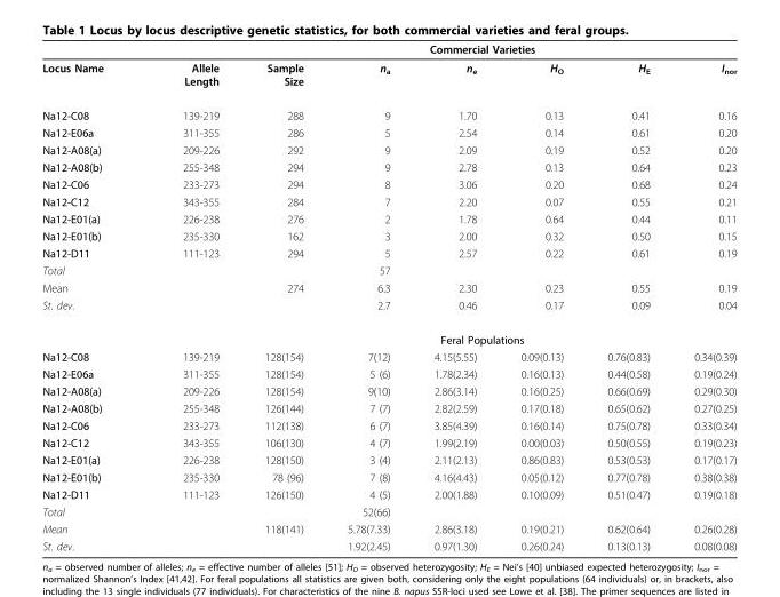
<table><thead><tr><td rowspan="2">Locus Name</td><td rowspan="2">Allele Length</td><td colspan="6">Commercial Varieties</td></tr><tr><td>Sample Size</td><td>n<sub>a</sub></td><td>n<sub>e</sub></td><td>H<sub>O</sub></td><td>H<sub>E</sub></td><td>I<sub>nor</sub></td></tr></thead><tbody><tr><td>Na12-C08</td><td>139-219</td><td>288</td><td>9</td><td>1.70</td><td>0.13</td><td>0.41</td><td>0.16</td></tr><tr><td>Na12-E06a</td><td>311-355</td><td>286</td><td>5</td><td>2.54</td><td>0.14</td><td>0.61</td><td>0.20</td></tr><tr><td>Na12-A08(a)</td><td>209-226</td><td>292</td><td>9</td><td>2.09</td><td>0.19</td><td>0.52</td><td>0.20</td></tr><tr><td>Na12-A08(b)</td><td>255-348</td><td>294</td><td>9</td><td>2.78</td><td>0.13</td><td>0.64</td><td>0.23</td></tr><tr><td>Na12-C06</td><td>233-273</td><td>294</td><td>8</td><td>3.06</td><td>0.20</td><td>0.68</td><td>0.24</td></tr><tr><td>Na12-C12</td><td>343-355</td><td>284</td><td>7</td><td>2.20</td><td>0.07</td><td>0.55</td><td>0.21</td></tr><tr><td>Na12-E01(a)</td><td>226-238</td><td>276</td><td>2</td><td>1.78</td><td>0.64</td><td>0.44</td><td>0.11</td></tr><tr><td>Na12-E01(b)</td><td>235-330</td><td>162</td><td>3</td><td>2.00</td><td>0.32</td><td>0.50</td><td>0.15</td></tr><tr><td>Na12-D11</td><td>111-123</td><td>294</td><td>5</td><td>2.57</td><td>0.22</td><td>0.61</td><td>0.19</td></tr><tr><td>Total</td><td></td><td></td><td>57</td><td></td><td></td><td></td><td></td></tr><tr><td>Mean</td><td></td><td>274</td><td>6.3</td><td>2.30</td><td>0.23</td><td>0.55</td><td>0.19</td></tr><tr><td rowspan="2">St. dev.</td><td></td><td></td><td>2.7</td><td>0.46</td><td>0.17</td><td>0.09</td><td>0.04</td></tr><tr><td></td><td colspan="6">Feral Populations</td></tr><tr><td>Na12-C08</td><td>139-219</td><td>128(154)</td><td>7(12)</td><td>4.15(5.55)</td><td>0.09(0.13)</td><td>0.76(0.83)</td><td>0.34(0.39)</td></tr><tr><td>Na12-E06a</td><td>311-355</td><td>128(154)</td><td>5 (6)</td><td>1.78(2.34)</td><td>0.16(0.13)</td><td>0.44(0.58)</td><td>0.19(0.24)</td></tr><tr><td>Na12-A08(a)</td><td>209-226</td><td>128(154)</td><td>9(10)</td><td>2.86(3.14)</td><td>0.16(0.25)</td><td>0.66(0.69)</td><td>0.29(0.30)</td></tr><tr><td>Na12-A08(b)</td><td>255-348</td><td>126(144)</td><td>7 (7)</td><td>2.82(2.59)</td><td>0.17(0.18)</td><td>0.65(0.62)</td><td>0.27(0.25)</td></tr><tr><td>Na12-C06</td><td>233-273</td><td>112(138)</td><td>6 (7)</td><td>3.85(4.39)</td><td>0.16(0.14)</td><td>0.75(0.78)</td><td>0.33(0.34)</td></tr><tr><td>Na12-C12</td><td>343-355</td><td>106(130)</td><td>4 (7)</td><td>1.99(2.19)</td><td>0.00(0.03)</td><td>0.50(0.55)</td><td>0.19(0.23)</td></tr><tr><td>Na12-E01(a)</td><td>226-238</td><td>128(150)</td><td>3 (4)</td><td>2.11(2.13)</td><td>0.86(0.83)</td><td>0.53(0.53)</td><td>0.17(0.17)</td></tr><tr><td>Na12-E01(b)</td><td>235-330</td><td>78 (96)</td><td>7 (8)</td><td>4.16(4.43)</td><td>0.05(0.12)</td><td>0.77(0.78)</td><td>0.38(0.38)</td></tr><tr><td>Na12-D11</td><td>111-123</td><td>126(150)</td><td>4 (5)</td><td>2.00(1.88)</td><td>0.10(0.09)</td><td>0.51(0.47)</td><td>0.19(0.18)</td></tr><tr><td>Total</td><td></td><td></td><td>52(66)</td><td></td><td></td><td></td><td></td></tr><tr><td>Mean</td><td></td><td>118(141)</td><td>5.78(7.33)</td><td>2.86(3.18)</td><td>0.19(0.21)</td><td>0.62(0.64)</td><td>0.26(0.28)</td></tr><tr><td>St. dev.</td><td></td><td></td><td>1.92(2.45)</td><td>0.97(1.30)</td><td>0.26(0.24)</td><td>0.13(0.13)</td><td>0.08(0.08)</td></tr></tbody></table>